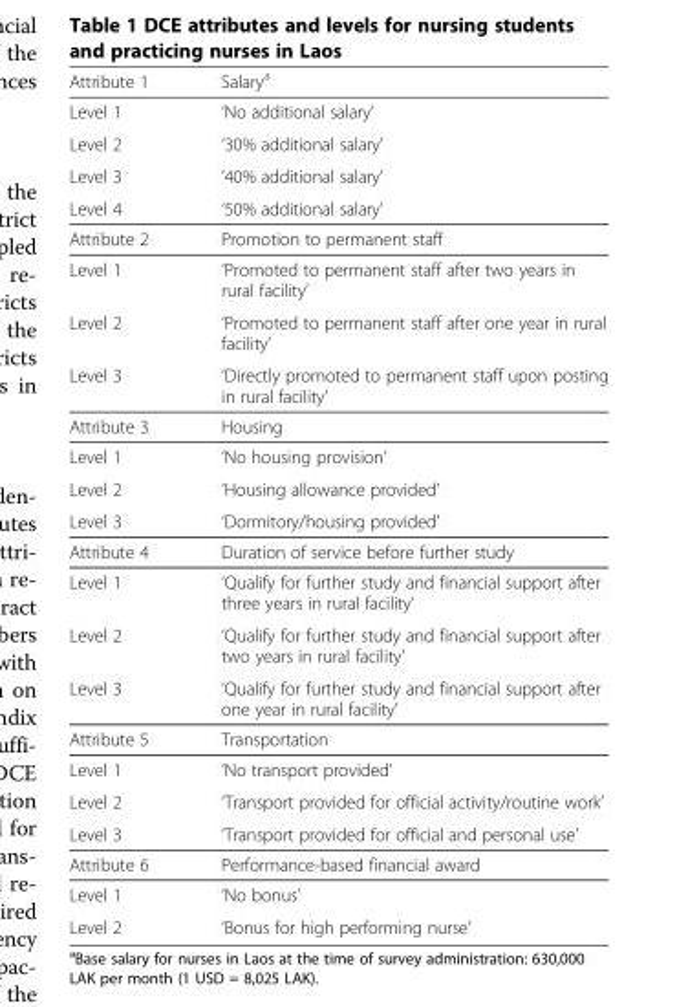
<table><tbody><tr><td>Attribute 1</td><td>Salary<sup>a</sup></td></tr><tr><td>Level 1</td><td>‘No additional salary’</td></tr><tr><td>Level 2</td><td>‘30% additional salary’</td></tr><tr><td>Level 3</td><td>‘40% additional salary’</td></tr><tr><td>Level 4</td><td>‘50% additional salary’</td></tr><tr><td>Attribute 2</td><td>Promotion to permanent staff</td></tr><tr><td>Level 1</td><td>‘Promoted to permanent staff after two years in rural facility’</td></tr><tr><td>Level 2</td><td>‘Promoted to permanent staff after one year in rural facility’</td></tr><tr><td>Level 3</td><td>‘Directly promoted to permanent staff upon posting in rural facility’</td></tr><tr><td>Attribute 3</td><td>Housing</td></tr><tr><td>Level 1</td><td>‘No housing provision’</td></tr><tr><td>Level 2</td><td>‘Housing allowance provided’</td></tr><tr><td>Level 3</td><td>‘Dormitory/housing provided’</td></tr><tr><td>Attribute 4</td><td>Duration of service before further study</td></tr><tr><td>Level 1</td><td>‘Qualify for further study and financial support after three years in rural facility’</td></tr><tr><td>Level 2</td><td>‘Qualify for further study and financial support after two years in rural facility’</td></tr><tr><td>Level 3</td><td>‘Qualify for further study and financial support after one year in rural facility’</td></tr><tr><td>Attribute 5</td><td>Transportation</td></tr><tr><td>Level 1</td><td>‘No transport provided’</td></tr><tr><td>Level 2</td><td>‘Transport provided for official activity/routine work’</td></tr><tr><td>Level 3</td><td>‘Transport provided for official and personal use’</td></tr><tr><td>Attribute 6</td><td>Performance-based financial award</td></tr><tr><td>Level 1</td><td>‘No bonus’</td></tr><tr><td>Level 2</td><td>‘Bonus for high performing nurse’</td></tr></tbody></table>